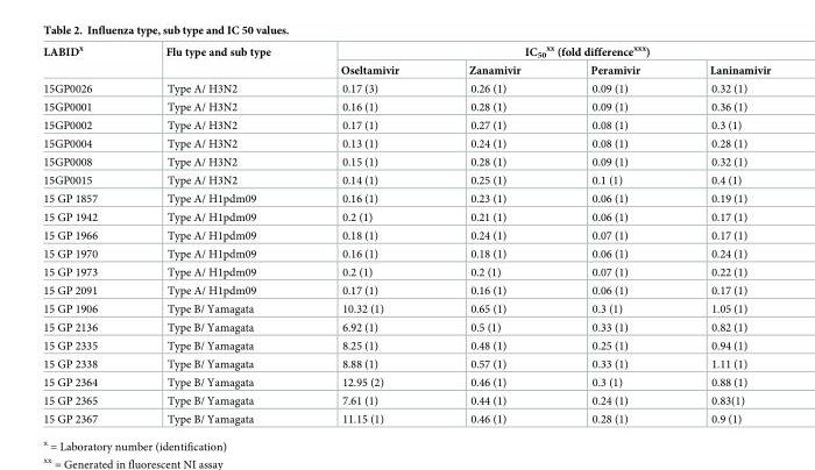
<table><thead><tr><td rowspan="2">LABID<sup>x</sup></td><td rowspan="2">Flu type and sub type</td><td colspan="4">IC<sub>50</sub> <sup>xx</sup> (fold difference<sup>xxx</sup>)</td></tr><tr><td>Oseltamivir</td><td>Zanamivir</td><td>Peramivir</td><td>Laninamivir</td></tr></thead><tbody><tr><td>15GP0026</td><td>Type A/ H3N2</td><td>0.17 (3)</td><td>0.26 (1)</td><td>0.09 (1)</td><td>0.32 (1)</td></tr><tr><td>15GP0001</td><td>Type A/ H3N2</td><td>0.16 (1)</td><td>0.28 (1)</td><td>0.09 (1)</td><td>0.36 (1)</td></tr><tr><td>15GP0002</td><td>Type A/ H3N2</td><td>0.17 (1)</td><td>0.27 (1)</td><td>0.08 (1)</td><td>0.3 (1)</td></tr><tr><td>15GP0004</td><td>Type A/ H3N2</td><td>0.13 (1)</td><td>0.24 (1)</td><td>0.08 (1)</td><td>0.28 (1)</td></tr><tr><td>15GP0008</td><td>Type A/ H3N2</td><td>0.15 (1)</td><td>0.28 (1)</td><td>0.09 (1)</td><td>0.32 (1)</td></tr><tr><td>15GP0015</td><td>Type A/ H3N2</td><td>0.14 (1)</td><td>0.25 (1)</td><td>0.1 (1)</td><td>0.4 (1)</td></tr><tr><td>15 GP 1857</td><td>Type A/ H1pdm09</td><td>0.16 (1)</td><td>0.23 (1)</td><td>0.06 (1)</td><td>0.19 (1)</td></tr><tr><td>15 GP 1942</td><td>Type A/ H1pdm09</td><td>0.2 (1)</td><td>0.21 (1)</td><td>0.06 (1)</td><td>0.17 (1)</td></tr><tr><td>15 GP 1966</td><td>Type A/ H1pdm09</td><td>0.18 (1)</td><td>0.24 (1)</td><td>0.07 (1)</td><td>0.17 (1)</td></tr><tr><td>15 GP 1970</td><td>Type A/ H1pdm09</td><td>0.16 (1)</td><td>0.18 (1)</td><td>0.06 (1)</td><td>0.24 (1)</td></tr><tr><td>15 GP 1973</td><td>Type A/ H1pdm09</td><td>0.2 (1)</td><td>0.2 (1)</td><td>0.07 (1)</td><td>0.22 (1)</td></tr><tr><td>15 GP 2091</td><td>Type A/ H1pdm09</td><td>0.17 (1)</td><td>0.16 (1)</td><td>0.06 (1)</td><td>0.17 (1)</td></tr><tr><td>15 GP 1906</td><td>Type B/ Yamagata</td><td>10.32 (1)</td><td>0.65 (1)</td><td>0.3 (1)</td><td>1.05 (1)</td></tr><tr><td>15 GP 2136</td><td>Type B/ Yamagata</td><td>6.92 (1)</td><td>0.5 (1)</td><td>0.33 (1)</td><td>0.82 (1)</td></tr><tr><td>15 GP 2335</td><td>Type B/ Yamagata</td><td>8.25 (1)</td><td>0.48 (1)</td><td>0.25 (1)</td><td>0.94 (1)</td></tr><tr><td>15 GP 2338</td><td>Type B/ Yamagata</td><td>8.88 (1)</td><td>0.57 (1)</td><td>0.33 (1)</td><td>1.11 (1)</td></tr><tr><td>15 GP 2364</td><td>Type B/ Yamagata</td><td>12.95 (2)</td><td>0.46 (1)</td><td>0.3 (1)</td><td>0.88 (1)</td></tr><tr><td>15 GP 2365</td><td>Type B/ Yamagata</td><td>7.61 (1)</td><td>0.44 (1)</td><td>0.24 (1)</td><td>0.83(1)</td></tr><tr><td>15 GP 2367</td><td>Type B/ Yamagata</td><td>11.15 (1)</td><td>0.46 (1)</td><td>0.28 (1)</td><td>0.9 (1)</td></tr></tbody></table>